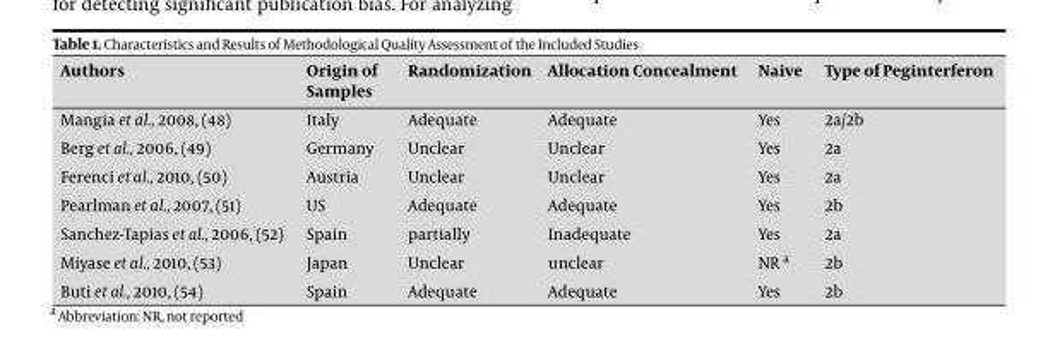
<table><thead><tr><td>Authors</td><td>Origin of Samples</td><td>Randomization</td><td>Allocation Concealment</td><td>Naive</td><td>Type of Peginterferon</td></tr></thead><tbody><tr><td>Mangia et al., 2008, (48)</td><td>Italy</td><td>Adequate</td><td>Adequate</td><td>Yes</td><td>2a/2b</td></tr><tr><td>Berg et al., 2006, (49)</td><td>Germany</td><td>Unclear</td><td>Unclear</td><td>Yes</td><td>2a</td></tr><tr><td>Ferenci et al., 2010, (50)</td><td>Austria</td><td>Unclear</td><td>Unclear</td><td>Yes</td><td>2a</td></tr><tr><td>Pearlman et al., 2007, (51)</td><td>US</td><td>Adequate</td><td>Adequate</td><td>Yes</td><td>2b</td></tr><tr><td>Sanchez-Tapias et al., 2006, (52)</td><td>Spain</td><td>partially</td><td>Inadequate</td><td>Yes</td><td>2a</td></tr><tr><td>Miyase et al., 2010, (53)</td><td>Japan</td><td>Unclear</td><td>unclear</td><td>NR a</td><td>2b</td></tr><tr><td>Buti et al., 2010, (54)</td><td>Spain</td><td>Adequate</td><td>Adequate</td><td>Yes</td><td>2b</td></tr></tbody></table>